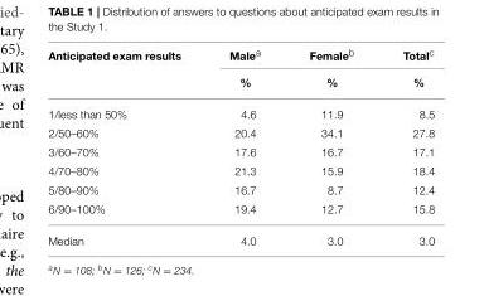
<table><thead><tr><td rowspan="2">Anticipated exam results</td><td rowspan="2">Male<sup>a</sup> %</td><td rowspan="2">Female<sup>b</sup> %</td><td rowspan="2">Total<sup>c</sup> %</td></tr><tr></tr></thead><tbody><tr><td>1/less than 50%</td><td>4.6</td><td>11.9</td><td>8.5</td></tr><tr><td>2/50–60%</td><td>20.4</td><td>34.1</td><td>27.8</td></tr><tr><td>3/60–70%</td><td>17.6</td><td>16.7</td><td>17.1</td></tr><tr><td>4/70–80%</td><td>21.3</td><td>15.9</td><td>18.4</td></tr><tr><td>5/80–90%</td><td>16.7</td><td>8.7</td><td>12.4</td></tr><tr><td>6/90–100%</td><td>19.4</td><td>12.7</td><td>15.8</td></tr><tr><td>Median</td><td>4.0</td><td>3.0</td><td>3.0</td></tr></tbody></table>